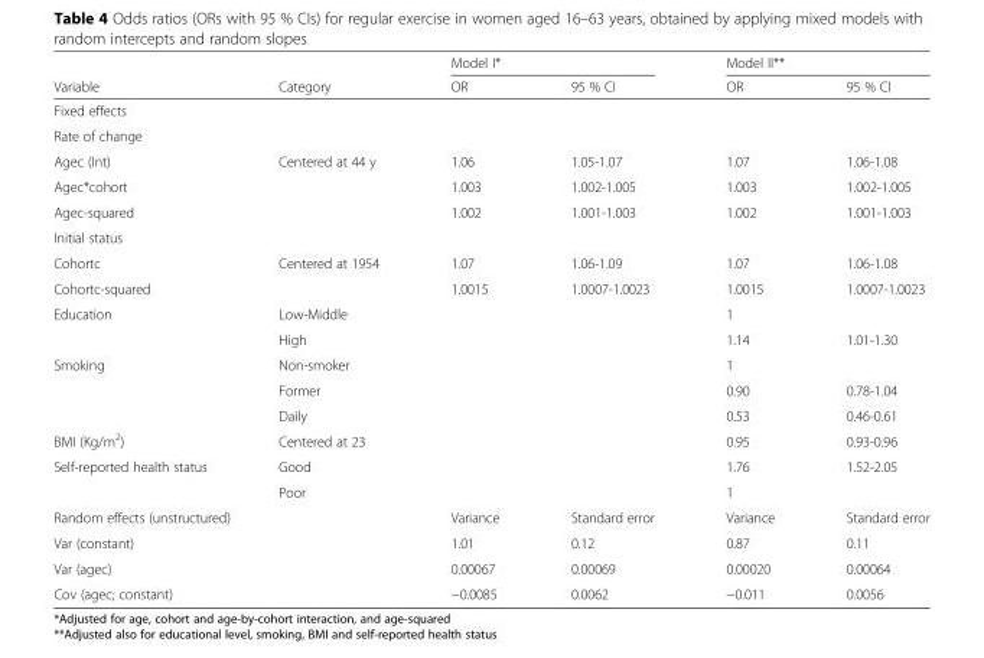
<table><thead><tr><td rowspan="2">Variable</td><td rowspan="2">Category</td><td colspan="2">Model I*</td><td colspan="2">Model II**</td></tr><tr><td>OR</td><td>95 % CI</td><td>OR</td><td>95 % CI</td></tr></thead><tbody><tr><td colspan="6">Fixed effects</td></tr><tr><td colspan="6">Rate of change</td></tr><tr><td>Agec (Int)</td><td>Centered at 44 y</td><td>1.06</td><td>1.05-1.07</td><td>1.07</td><td>1.06-1.08</td></tr><tr><td>Agec*cohort</td><td></td><td>1.003</td><td>1.002-1.005</td><td>1.003</td><td>1.002-1.005</td></tr><tr><td>Agec-squared</td><td></td><td>1.002</td><td>1.001-1.003</td><td>1.002</td><td>1.001-1.003</td></tr><tr><td colspan="6">Initial status</td></tr><tr><td>Cohortc</td><td>Centered at 1954</td><td>1.07</td><td>1.06-1.09</td><td>1.07</td><td>1.06-1.08</td></tr><tr><td>Cohortc-squared</td><td></td><td>1.0015</td><td>1.0007-1.0023</td><td>1.0015</td><td>1.0007-1.0023</td></tr><tr><td rowspan="2">Education</td><td>Low-Middle</td><td></td><td></td><td>1</td><td></td></tr><tr><td>High</td><td></td><td></td><td>1.14</td><td>1.01-1.30</td></tr><tr><td rowspan="3">Smoking</td><td>Non-smoker</td><td></td><td></td><td>1</td><td></td></tr><tr><td>Former</td><td></td><td></td><td>0.90</td><td>0.78-1.04</td></tr><tr><td>Daily</td><td></td><td></td><td>0.53</td><td>0.46-0.61</td></tr><tr><td>BMI (Kg/m<sup>2</sup>)</td><td>Centered at 23</td><td></td><td></td><td>0.95</td><td>0.93-0.96</td></tr><tr><td rowspan="2">Self-reported health status</td><td>Good</td><td></td><td></td><td>1.76</td><td>1.52-2.05</td></tr><tr><td>Poor</td><td></td><td></td><td>1</td><td></td></tr><tr><td colspan="2">Random effects (unstructured)</td><td>Variance</td><td>Standard error</td><td>Variance</td><td>Standard error</td></tr><tr><td colspan="2">Var (constant)</td><td>1.01</td><td>0.12</td><td>0.87</td><td>0.11</td></tr><tr><td colspan="2">Var (agec)</td><td>0.00067</td><td>0.00069</td><td>0.00020</td><td>0.00064</td></tr><tr><td colspan="2">Cov (agec; constant)</td><td>−0.0085</td><td>0.0062</td><td>−0.011</td><td>0.0056</td></tr></tbody></table>